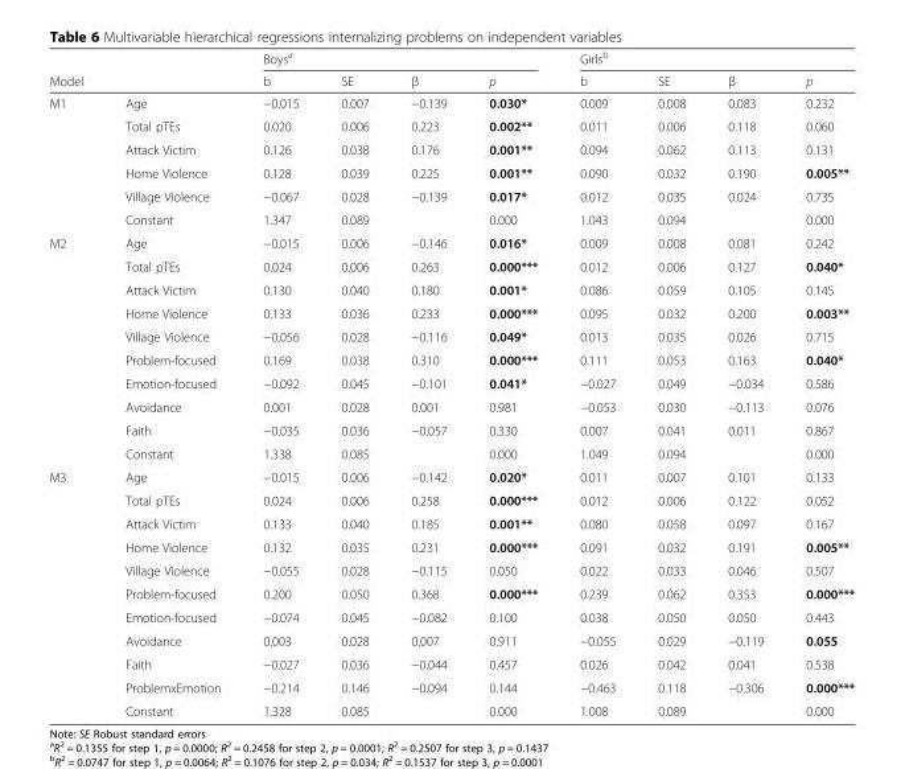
<table><thead><tr><td rowspan="2">Model</td><td rowspan="2"></td><td rowspan="2">Boys<sup>a</sup> b</td><td rowspan="2">SE</td><td rowspan="2">β</td><td rowspan="2">p</td><td rowspan="2">Girls<sup>b</sup> b</td><td rowspan="2">SE</td><td rowspan="2">β</td><td rowspan="2">p</td></tr><tr></tr></thead><tbody><tr><td rowspan="6">M1</td><td>Age</td><td>−0.015</td><td>0.007</td><td>−0.139</td><td>0.030*</td><td>0.009</td><td>0.008</td><td>0.083</td><td>0.232</td></tr><tr><td>Total pTEs</td><td>0.020</td><td>0.006</td><td>0.223</td><td>0.002**</td><td>0.011</td><td>0.006</td><td>0.118</td><td>0.060</td></tr><tr><td>Attack Victim</td><td>0.126</td><td>0.038</td><td>0.176</td><td>0.001**</td><td>0.094</td><td>0.062</td><td>0.113</td><td>0.131</td></tr><tr><td>Home Violence</td><td>0.128</td><td>0.039</td><td>0.225</td><td>0.001**</td><td>0.090</td><td>0.032</td><td>0.190</td><td>0.005**</td></tr><tr><td>Village Violence</td><td>−0.067</td><td>0.028</td><td>−0.139</td><td>0.017*</td><td>0.012</td><td>0.035</td><td>0.024</td><td>0.735</td></tr><tr><td>Constant</td><td>1.347</td><td>0.089</td><td></td><td>0.000</td><td>1.043</td><td>0.094</td><td></td><td>0.000</td></tr><tr><td rowspan="10">M2</td><td>Age</td><td>−0.015</td><td>0.006</td><td>−0.146</td><td>0.016*</td><td>0.009</td><td>0.008</td><td>0.081</td><td>0.242</td></tr><tr><td>Total pTEs</td><td>0.024</td><td>0.006</td><td>0.263</td><td>0.000***</td><td>0.012</td><td>0.006</td><td>0.127</td><td>0.040*</td></tr><tr><td>Attack Victim</td><td>0.130</td><td>0.040</td><td>0.180</td><td>0.001*</td><td>0.086</td><td>0.059</td><td>0.105</td><td>0.145</td></tr><tr><td>Home Violence</td><td>0.133</td><td>0.036</td><td>0.233</td><td>0.000***</td><td>0.095</td><td>0.032</td><td>0.200</td><td>0.003**</td></tr><tr><td>Village Violence</td><td>−0.056</td><td>0.028</td><td>−0.116</td><td>0.049*</td><td>0.013</td><td>0.035</td><td>0.026</td><td>0.715</td></tr><tr><td>Problem-focused</td><td>0.169</td><td>0.038</td><td>0.310</td><td>0.000***</td><td>0.111</td><td>0.053</td><td>0.163</td><td>0.040*</td></tr><tr><td>Emotion-focused</td><td>−0.092</td><td>0.045</td><td>−0.101</td><td>0.041*</td><td>−0.027</td><td>0.049</td><td>−0.034</td><td>0.586</td></tr><tr><td>Avoidance</td><td>0.001</td><td>0.028</td><td>0.001</td><td>0.981</td><td>−0.053</td><td>0.030</td><td>−0.113</td><td>0.076</td></tr><tr><td>Faith</td><td>−0.035</td><td>0.036</td><td>−0.057</td><td>0.330</td><td>0.007</td><td>0.041</td><td>0.011</td><td>0.867</td></tr><tr><td>Constant</td><td>1.338</td><td>0.085</td><td></td><td>0.000</td><td>1.049</td><td>0.094</td><td></td><td>0.000</td></tr><tr><td rowspan="11">M3</td><td>Age</td><td>−0.015</td><td>0.006</td><td>−0.142</td><td>0.020*</td><td>0.011</td><td>0.007</td><td>0.101</td><td>0.133</td></tr><tr><td>Total pTEs</td><td>0.024</td><td>0.006</td><td>0.258</td><td>0.000***</td><td>0.012</td><td>0.006</td><td>0.122</td><td>0.052</td></tr><tr><td>Attack Victim</td><td>0.133</td><td>0.040</td><td>0.185</td><td>0.001**</td><td>0.080</td><td>0.058</td><td>0.097</td><td>0.167</td></tr><tr><td>Home Violence</td><td>0.132</td><td>0.035</td><td>0.231</td><td>0.000***</td><td>0.091</td><td>0.032</td><td>0.191</td><td>0.005**</td></tr><tr><td>Village Violence</td><td>−0.055</td><td>0.028</td><td>−0.115</td><td>0.050</td><td>0.022</td><td>0.033</td><td>0.046</td><td>0.507</td></tr><tr><td>Problem-focused</td><td>0.200</td><td>0.050</td><td>0.368</td><td>0.000***</td><td>0.239</td><td>0.062</td><td>0.353</td><td>0.000***</td></tr><tr><td>Emotion-focused</td><td>−0.074</td><td>0.045</td><td>−0.082</td><td>0.100</td><td>0.038</td><td>0.050</td><td>0.050</td><td>0.443</td></tr><tr><td>Avoidance</td><td>0.003</td><td>0.028</td><td>0.007</td><td>0.911</td><td>−0.055</td><td>0.029</td><td>−0.119</td><td>0.055</td></tr><tr><td>Faith</td><td>−0.027</td><td>0.036</td><td>−0.044</td><td>0.457</td><td>0.026</td><td>0.042</td><td>0.041</td><td>0.538</td></tr><tr><td>ProblemxEmotion</td><td>−0.214</td><td>0.146</td><td>−0.094</td><td>0.144</td><td>−0.463</td><td>0.118</td><td>−0.306</td><td>0.000***</td></tr><tr><td>Constant</td><td>1.328</td><td>0.085</td><td></td><td>0.000</td><td>1.008</td><td>0.089</td><td></td><td>0.000</td></tr></tbody></table>